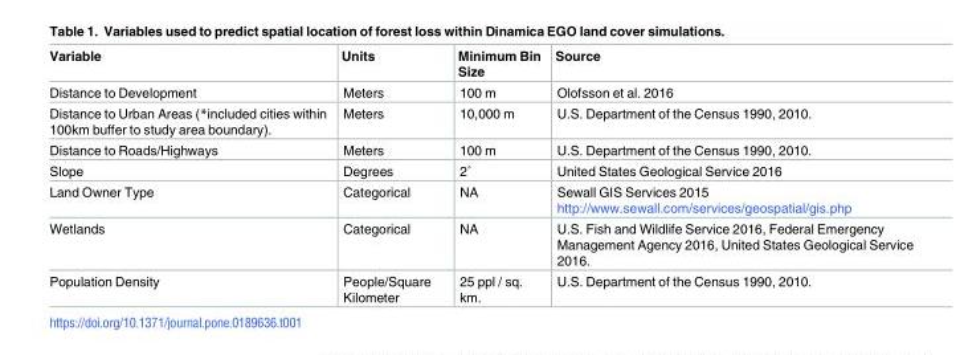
<table><thead><tr><td>Variable</td><td>Units</td><td>Minimum Bin Size</td><td>Source</td></tr></thead><tbody><tr><td>Distance to Development</td><td>Meters</td><td>100 m</td><td>Olofsson et al. 2016</td></tr><tr><td>Distance to Urban Areas (*included cities within 100km buffer to study area boundary).</td><td>Meters</td><td>10,000 m</td><td>U.S. Department of the Census 1990, 2010.</td></tr><tr><td>Distance to Roads/Highways</td><td>Meters</td><td>100 m</td><td>U.S. Department of the Census 1990, 2010.</td></tr><tr><td>Slope</td><td>Degrees</td><td>2˚</td><td>United States Geological Service 2016</td></tr><tr><td>Land Owner Type</td><td>Categorical</td><td>NA</td><td>Sewall GIS Services 2015 http://www.sewall.com/services/geospatial/gis.php</td></tr><tr><td>Wetlands</td><td>Categorical</td><td>NA</td><td>U.S. Fish and Wildlife Service 2016, Federal Emergency Management Agency 2016, United States Geological Service 2016.</td></tr><tr><td>Population Density</td><td>People/Square Kilometer</td><td>25 ppl / sq. km.</td><td>U.S. Department of the Census 1990, 2010.</td></tr></tbody></table>